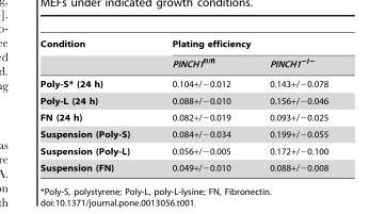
<table><thead><tr><td rowspan="2">Condition</td><td colspan="2">Plating efficiency</td></tr><tr><td>PINCH1<sup>fl/fl</sup></td><td>PINCH1<sup>−/−</sup></td></tr></thead><tbody><tr><td>Poly-S* (24 h)</td><td>0.104+/−0.012</td><td>0.143+/−0.078</td></tr><tr><td>Poly-L (24 h)</td><td>0.088+/−0.010</td><td>0.156+/−0.046</td></tr><tr><td>FN (24 h)</td><td>0.082+/−0.019</td><td>0.093+/−0.025</td></tr><tr><td>Suspension (Poly-S)</td><td>0.084+/−0.034</td><td>0.199+/−0.055</td></tr><tr><td>Suspension (Poly-L)</td><td>0.056+/−0.005</td><td>0.172+/−0.100</td></tr><tr><td>Suspension (FN)</td><td>0.049+/−0.010</td><td>0.088+/−0.008</td></tr></tbody></table>